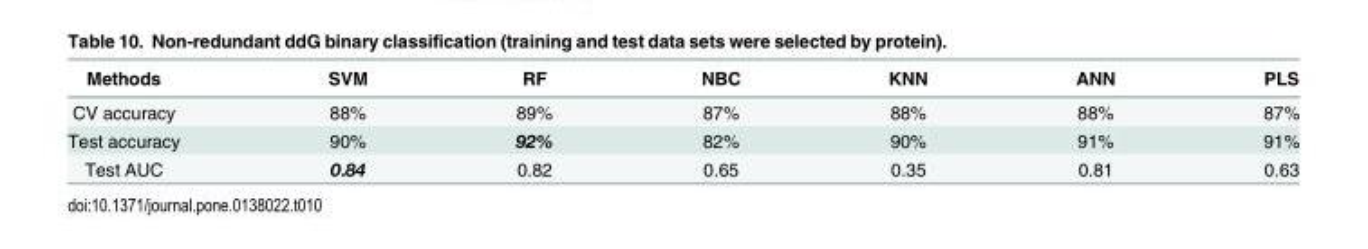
<table><thead><tr><td>Methods</td><td>SVM</td><td>RF</td><td>NBC</td><td>KNN</td><td>ANN</td><td>PLS</td></tr></thead><tbody><tr><td>CV accuracy</td><td>88%</td><td>89%</td><td>87%</td><td>88%</td><td>88%</td><td>87%</td></tr><tr><td>Test accuracy</td><td>90%</td><td>92%</td><td>82%</td><td>90%</td><td>91%</td><td>91%</td></tr><tr><td>Test AUC</td><td>0.84</td><td>0.82</td><td>0.65</td><td>0.35</td><td>0.81</td><td>0.63</td></tr></tbody></table>